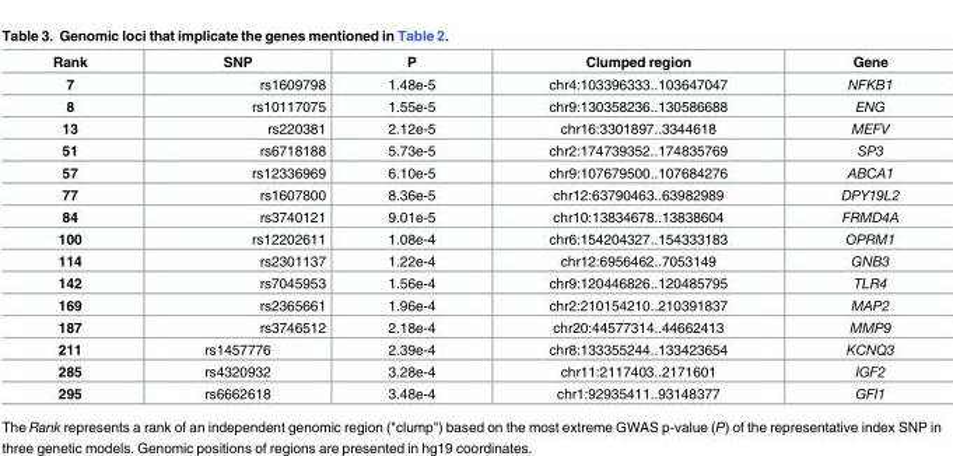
<table><thead><tr><td>Rank</td><td>SNP</td><td>P</td><td>Clumped region</td><td>Gene</td></tr></thead><tbody><tr><td>7</td><td>rs1609798</td><td>1.48e-5</td><td>chr4:103396333..103647047</td><td>NFKB1</td></tr><tr><td>8</td><td>rs10117075</td><td>1.55e-5</td><td>chr9:130358236..130586688</td><td>ENG</td></tr><tr><td>13</td><td>rs220381</td><td>2.12e-5</td><td>chr16:3301897..3344618</td><td>MEFV</td></tr><tr><td>51</td><td>rs6718188</td><td>5.73e-5</td><td>chr2:174739352..174835769</td><td>SP3</td></tr><tr><td>57</td><td>rs12336969</td><td>6.10e-5</td><td>chr9:107679500..107684276</td><td>ABCA1</td></tr><tr><td>77</td><td>rs1607800</td><td>8.36e-5</td><td>chr12:63790463..63982989</td><td>DPY19L2</td></tr><tr><td>84</td><td>rs3740121</td><td>9.01e-5</td><td>chr10:13834678..13838604</td><td>FRMD4A</td></tr><tr><td>100</td><td>rs12202611</td><td>1.08e-4</td><td>chr6:154204327..154333183</td><td>OPRM1</td></tr><tr><td>114</td><td>rs2301137</td><td>1.22e-4</td><td>chr12:6956462..7053149</td><td>GNB3</td></tr><tr><td>142</td><td>rs7045953</td><td>1.56e-4</td><td>chr9:120446826..120485795</td><td>TLR4</td></tr><tr><td>169</td><td>rs2365661</td><td>1.96e-4</td><td>chr2:210154210..210391837</td><td>MAP2</td></tr><tr><td>187</td><td>rs3746512</td><td>2.18e-4</td><td>chr20:44577314..44662413</td><td>MMP9</td></tr><tr><td>211</td><td>rs1457776</td><td>2.39e-4</td><td>chr8:133355244..133423654</td><td>KCNQ3</td></tr><tr><td>285</td><td>rs4320932</td><td>3.28e-4</td><td>chr11:2117403..2171601</td><td>IGF2</td></tr><tr><td>295</td><td>rs6662618</td><td>3.48e-4</td><td>chr1:92935411..93148377</td><td>GFI1</td></tr></tbody></table>